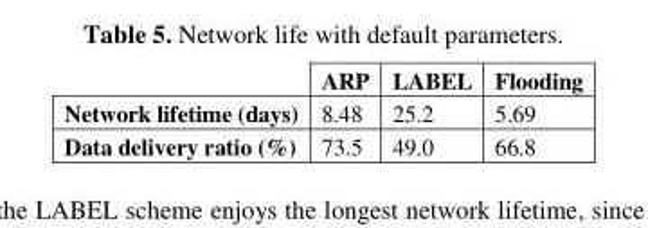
<table><thead><tr><td></td><td>ARP</td><td>LABEL</td><td>Flooding</td></tr></thead><tbody><tr><td>Network lifetime (days)</td><td>8.48</td><td>25.2</td><td>5.69</td></tr><tr><td>Data delivery ratio (%)</td><td>73.5</td><td>49.0</td><td>66.8</td></tr></tbody></table>